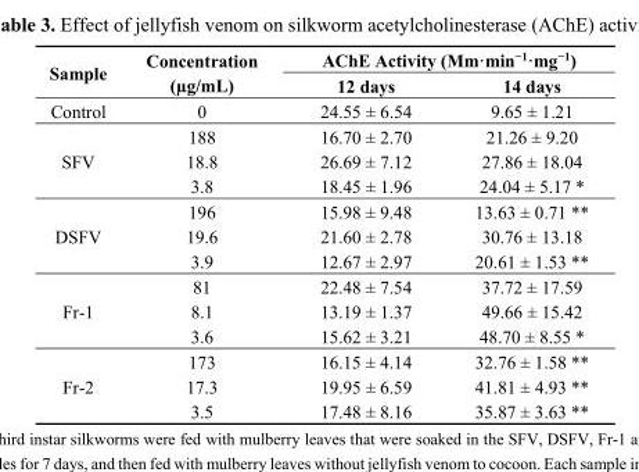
<table><thead><tr><td rowspan="2">Sample</td><td rowspan="2">Concentration (µg/mL)</td><td colspan="2">AChE Activity (Μm·min<sup>−1</sup>·mg<sup>−1</sup>)</td></tr><tr><td>12 days</td><td>14 days</td></tr></thead><tbody><tr><td>Control</td><td>0</td><td>24.55 ± 6.54</td><td>9.65 ± 1.21</td></tr><tr><td rowspan="3">SFV</td><td>188</td><td>16.70 ± 2.70</td><td>21.26 ± 9.20</td></tr><tr><td>18.8</td><td>26.69 ± 7.12</td><td>27.86 ± 18.04</td></tr><tr><td>3.8</td><td>18.45 ± 1.96</td><td>24.04 ± 5.17 *</td></tr><tr><td rowspan="3">DSFV</td><td>196</td><td>15.98 ± 9.48</td><td>13.63 ± 0.71 **</td></tr><tr><td>19.6</td><td>21.60 ± 2.78</td><td>30.76 ± 13.18</td></tr><tr><td>3.9</td><td>12.67 ± 2.97</td><td>20.61 ± 1.53 **</td></tr><tr><td rowspan="3">Fr-1</td><td>81</td><td>22.48 ± 7.54</td><td>37.72 ± 17.59</td></tr><tr><td>8.1</td><td>13.19 ± 1.37</td><td>49.66 ± 15.42</td></tr><tr><td>3.6</td><td>15.62 ± 3.21</td><td>48.70 ± 8.55 *</td></tr><tr><td rowspan="3">Fr-2</td><td>173</td><td>16.15 ± 4.14</td><td>32.76 ± 1.58 **</td></tr><tr><td>17.3</td><td>19.95 ± 6.59</td><td>41.81 ± 4.93 **</td></tr><tr><td>3.5</td><td>17.48 ± 8.16</td><td>35.87 ± 3.63 **</td></tr></tbody></table>